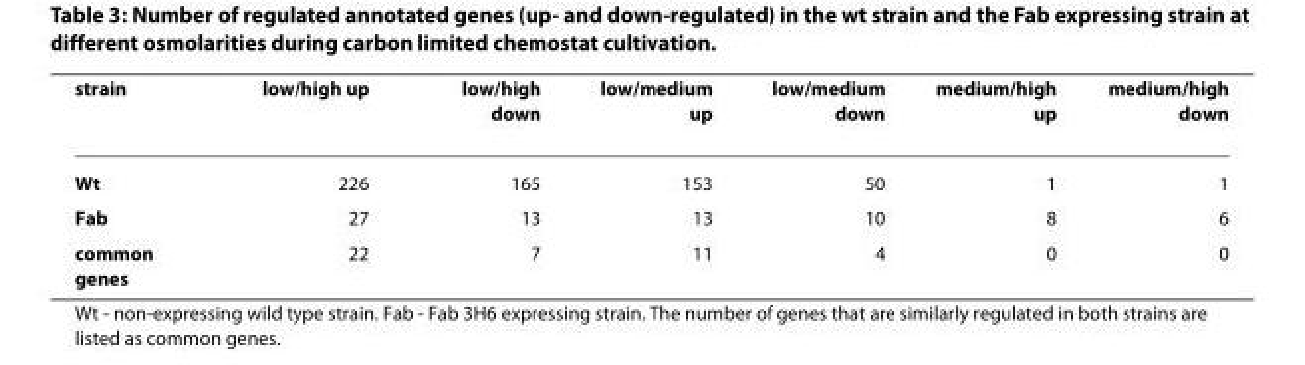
<table><thead><tr><td>strain</td><td>low/high up</td><td>low/high down</td><td>low/medium up</td><td>low/medium down</td><td>medium/high up</td><td>medium/high down</td></tr></thead><tbody><tr><td>Wt</td><td>226</td><td>165</td><td>153</td><td>50</td><td>1</td><td>1</td></tr><tr><td>Fab</td><td>27</td><td>13</td><td>13</td><td>10</td><td>8</td><td>6</td></tr><tr><td>common genes</td><td>22</td><td>7</td><td>11</td><td>4</td><td>0</td><td>0</td></tr></tbody></table>